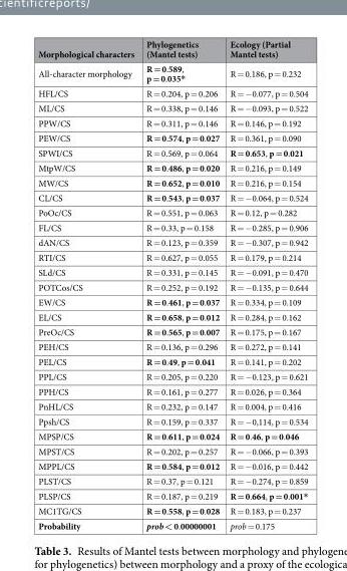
<table><thead><tr><td>Morphological characters</td><td>Phylogenetics (Mantel tests)</td><td>Ecology (Partial Mantel tests)</td></tr></thead><tbody><tr><td>All-character morphology</td><td>R = 0.589, p = 0.035*</td><td>R = 0.186, p = 0.232</td></tr><tr><td>HFL/CS</td><td>R = 0.204, p = 0.206</td><td>R = −0.077, p = 0.504</td></tr><tr><td>ML/CS</td><td>R = 0.338, p = 0.146</td><td>R = −0.093, p = 0.522</td></tr><tr><td>PPW/CS</td><td>R = 0.311, p = 0.146</td><td>R = 0.146, p = 0.192</td></tr><tr><td>PEW/CS</td><td>R = 0.574, p = 0.027</td><td>R = 0.361, p = 0.090</td></tr><tr><td>SPWI/CS</td><td>R = 0.569, p = 0.064</td><td>R = 0.653, p = 0.021</td></tr><tr><td>MtpW/CS</td><td>R = 0.486, p = 0.020</td><td>R = 0.216, p = 0.149</td></tr><tr><td>MW/CS</td><td>R = 0.652, p = 0.010</td><td>R = 0.216, p = 0.154</td></tr><tr><td>CL/CS</td><td>R = 0.543, p = 0.037</td><td>R = −0.064, p = 0.524</td></tr><tr><td>PoOc/CS</td><td>R = 0.551, p = 0.063</td><td>R = 0.12, p = 0.282</td></tr><tr><td>FL/CS</td><td>R = 0.33, p = 0.158</td><td>R = −0.285, p = 0.906</td></tr><tr><td>dAN/CS</td><td>R = 0.123, p = 0.359</td><td>R = −0.307, p = 0.942</td></tr><tr><td>RTI/CS</td><td>R = 0.627, p = 0.055</td><td>R = 0.179, p = 0.214</td></tr><tr><td>SLd/CS</td><td>R = 0.331, p = 0.145</td><td>R = −0.091, p = 0.470</td></tr><tr><td>POTCos/CS</td><td>R = 0.252, p = 0.192</td><td>R = −0.135, p = 0.644</td></tr><tr><td>EW/CS</td><td>R = 0.461, p = 0.037</td><td>R = 0.334, p = 0.109</td></tr><tr><td>EL/CS</td><td>R = 0.658, p = 0.012</td><td>R = 0.284, p = 0.162</td></tr><tr><td>PreOc/CS</td><td>R = 0.565, p = 0.007</td><td>R = 0.175, p = 0.167</td></tr><tr><td>PEH/CS</td><td>R = 0.136, p = 0.296</td><td>R = 0.272, p = 0.141</td></tr><tr><td>PEL/CS</td><td>R = 0.49, p = 0.041</td><td>R = 0.141, p = 0.202</td></tr><tr><td>PPL/CS</td><td>R = 0.205, p = 0.220</td><td>R = −0.123, p = 0.621</td></tr><tr><td>PPH/CS</td><td>R = 0.161, p = 0.277</td><td>R = 0.026, p = 0.364</td></tr><tr><td>PnHL/CS</td><td>R = 0.232, p = 0.147</td><td>R = 0.004, p = 0.416</td></tr><tr><td>Ppsh/CS</td><td>R = 0.159, p = 0.337</td><td>R = −0,114, p = 0.534</td></tr><tr><td>MPSP/CS</td><td>R = 0.611, p = 0.024</td><td>R = 0.46, p = 0.046</td></tr><tr><td>MPST/CS</td><td>R = 0.202, p = 0.257</td><td>R = −0.066, p = 0.393</td></tr><tr><td>MPPL/CS</td><td>R = 0.584, p = 0.012</td><td>R = −0.016, p = 0.442</td></tr><tr><td>PLST/CS</td><td>R = 0.37, p = 0.121</td><td>R = −0.274, p = 0.859</td></tr><tr><td>PLSP/CS</td><td>R = 0.187, p = 0.219</td><td>R = 0.664, p = 0.001*</td></tr><tr><td>MC1TG/CS</td><td>R = 0.558, p = 0.028</td><td>R = 0.183, p = 0.237</td></tr><tr><td>Probability</td><td>prob &lt; 0.00000001</td><td>prob = 0.175</td></tr></tbody></table>